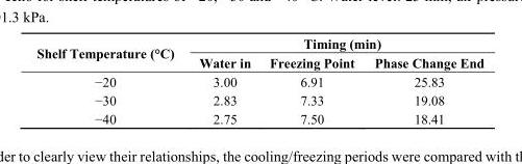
<table><thead><tr><td rowspan="2">Shelf Temperature (°C)</td><td colspan="3">Timing (min)</td></tr><tr><td>Water in</td><td>Freezing Point</td><td>Phase Change End</td></tr></thead><tbody><tr><td>−20</td><td>3.00</td><td>6.91</td><td>25.83</td></tr><tr><td>−30</td><td>2.83</td><td>7.33</td><td>19.08</td></tr><tr><td>−40</td><td>2.75</td><td>7.50</td><td>18.41</td></tr></tbody></table>